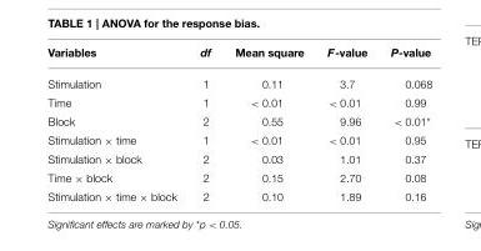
<table><thead><tr><td>Variables</td><td>df</td><td>Mean square</td><td>F-value</td><td>P-value</td></tr></thead><tbody><tr><td>Stimulation</td><td>1</td><td>0.11</td><td>3.7</td><td>0.068</td></tr><tr><td>Time</td><td>1</td><td>&lt; 0.01</td><td>&lt; 0.01</td><td>0.99</td></tr><tr><td>Block</td><td>2</td><td>0.55</td><td>9.96</td><td>&lt; 0.01*</td></tr><tr><td>Stimulation × time</td><td>1</td><td>&lt; 0.01</td><td>&lt; 0.01</td><td>0.95</td></tr><tr><td>Stimulation × block</td><td>2</td><td>0.03</td><td>1.01</td><td>0.37</td></tr><tr><td>Time × block</td><td>2</td><td>0.15</td><td>2.70</td><td>0.08</td></tr><tr><td>Stimulation × time × block</td><td>2</td><td>0.10</td><td>1.89</td><td>0.16</td></tr></tbody></table>